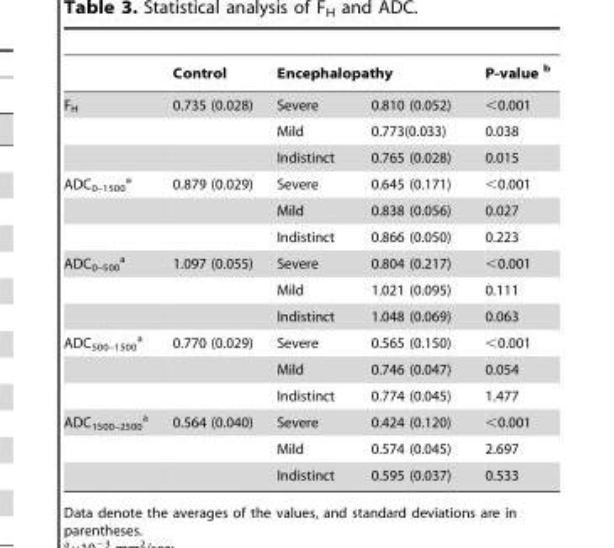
<table><thead><tr><td rowspan="2">F<sub>H</sub></td><td rowspan="2">Control 0.735 (0.028)</td><td colspan="2">Encephalopathy</td><td rowspan="2">P-value b &lt;0.001</td></tr><tr><td>Severe</td><td>0.810 (0.052)</td></tr></thead><tbody><tr><td></td><td></td><td>Mild</td><td>0.773(0.033)</td><td>0.038</td></tr><tr><td></td><td></td><td>Indistinct</td><td>0.765 (0.028)</td><td>0.015</td></tr><tr><td rowspan="3">ADC<sub>0–1500</sub> a</td><td>0.879 (0.029)</td><td>Severe</td><td>0.645 (0.171)</td><td>&lt;0.001</td></tr><tr><td></td><td>Mild</td><td>0.838 (0.056)</td><td>0.027</td></tr><tr><td></td><td>Indistinct</td><td>0.866 (0.050)</td><td>0.223</td></tr><tr><td rowspan="3">ADC<sub>0–500</sub> a</td><td>1.097 (0.055)</td><td>Severe</td><td>0.804 (0.217)</td><td>&lt;0.001</td></tr><tr><td></td><td>Mild</td><td>1.021 (0.095)</td><td>0.111</td></tr><tr><td></td><td>Indistinct</td><td>1.048 (0.069)</td><td>0.063</td></tr><tr><td rowspan="3">ADC<sub>500–1500</sub> a</td><td>0.770 (0.029)</td><td>Severe</td><td>0.565 (0.150)</td><td>&lt;0.001</td></tr><tr><td></td><td>Mild</td><td>0.746 (0.047)</td><td>0.054</td></tr><tr><td></td><td>Indistinct</td><td>0.774 (0.045)</td><td>1.477</td></tr><tr><td rowspan="3">ADC<sub>1500–2500</sub> a</td><td>0.564 (0.040)</td><td>Severe</td><td>0.424 (0.120)</td><td>&lt;0.001</td></tr><tr><td></td><td>Mild</td><td>0.574 (0.045)</td><td>2.697</td></tr><tr><td></td><td>Indistinct</td><td>0.595 (0.037)</td><td>0.533</td></tr></tbody></table>